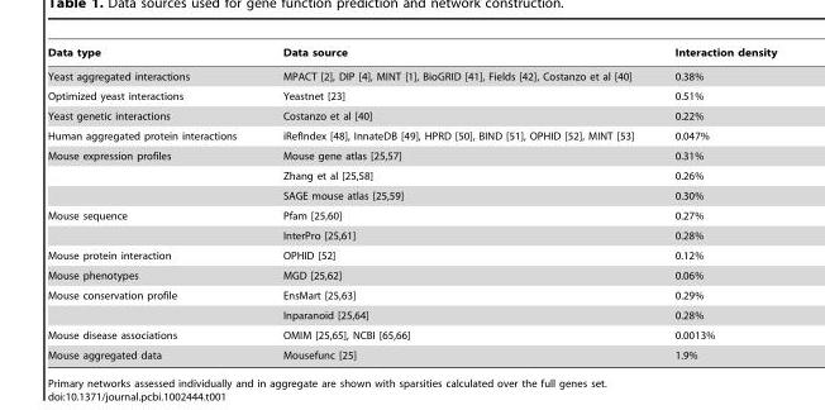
<table><thead><tr><td>Data type</td><td>Data source</td><td>Interaction density</td></tr></thead><tbody><tr><td>Yeast aggregated interactions</td><td>MPACT [2], DIP [4], MINT [1], BioGRID [41], Fields [42], Costanzo et al [40]</td><td>0.38%</td></tr><tr><td>Optimized yeast interactions</td><td>Yeastnet [23]</td><td>0.51%</td></tr><tr><td>Yeast genetic interactions</td><td>Costanzo et al [40]</td><td>0.22%</td></tr><tr><td>Human aggregated protein interactions</td><td>iRefIndex [48], InnateDB [49], HPRD [50], BIND [51], OPHID [52], MINT [53]</td><td>0.047%</td></tr><tr><td rowspan="3">Mouse expression profiles</td><td>Mouse gene atlas [25,57]</td><td>0.31%</td></tr><tr><td>Zhang et al [25,58]</td><td>0.26%</td></tr><tr><td>SAGE mouse atlas [25,59]</td><td>0.30%</td></tr><tr><td rowspan="2">Mouse sequence</td><td>Pfam [25,60]</td><td>0.27%</td></tr><tr><td>InterPro [25,61]</td><td>0.28%</td></tr><tr><td>Mouse protein interaction</td><td>OPHID [52]</td><td>0.12%</td></tr><tr><td>Mouse phenotypes</td><td>MGD [25,62]</td><td>0.06%</td></tr><tr><td rowspan="2">Mouse conservation profile</td><td>EnsMart [25,63]</td><td>0.29%</td></tr><tr><td>Inparanoid [25,64]</td><td>0.28%</td></tr><tr><td>Mouse disease associations</td><td>OMIM [25,65], NCBI [65,66]</td><td>0.0013%</td></tr><tr><td>Mouse aggregated data</td><td>Mousefunc [25]</td><td>1.9%</td></tr></tbody></table>